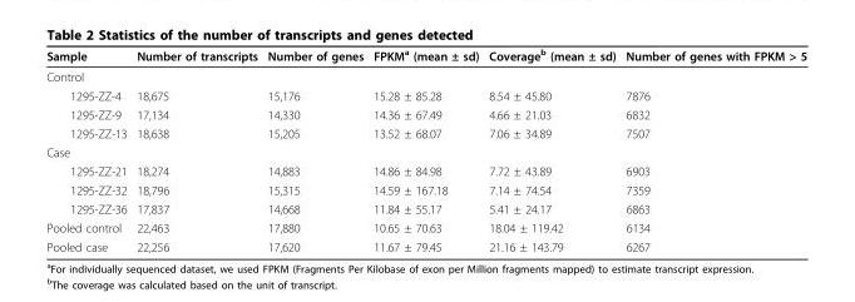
<table><thead><tr><td>Sample</td><td>Number of transcripts</td><td>Number of genes</td><td>FPKM<sup>a</sup> (mean ± sd)</td><td>Coverage<sup>b</sup> (mean ± sd)</td><td>Number of genes with FPKM &gt; 5</td></tr></thead><tbody><tr><td colspan="6">Control</td></tr><tr><td>1295-ZZ-4</td><td>18,675</td><td>15,176</td><td>15.28 ± 85.28</td><td>8.54 ± 45.80</td><td>7876</td></tr><tr><td>1295-ZZ-9</td><td>17,134</td><td>14,330</td><td>14.36 ± 67.49</td><td>4.66 ± 21.03</td><td>6832</td></tr><tr><td>1295-ZZ-13</td><td>18,638</td><td>15,205</td><td>13.52 ± 68.07</td><td>7.06 ± 34.89</td><td>7507</td></tr><tr><td colspan="6">Case</td></tr><tr><td>1295-ZZ-21</td><td>18,274</td><td>14,883</td><td>14.86 ± 84.98</td><td>7.72 ± 43.89</td><td>6903</td></tr><tr><td>1295-ZZ-32</td><td>18,796</td><td>15,315</td><td>14.59 ± 167.18</td><td>7.14 ± 74.54</td><td>7359</td></tr><tr><td>1295-ZZ-36</td><td>17,837</td><td>14,668</td><td>11.84 ± 55.17</td><td>5.41 ± 24.17</td><td>6863</td></tr><tr><td>Pooled control</td><td>22,463</td><td>17,880</td><td>10.65 ± 70.63</td><td>18.04 ± 119.42</td><td>6134</td></tr><tr><td>Pooled case</td><td>22,256</td><td>17,620</td><td>11.67 ± 79.45</td><td>21.16 ± 143.79</td><td>6267</td></tr></tbody></table>